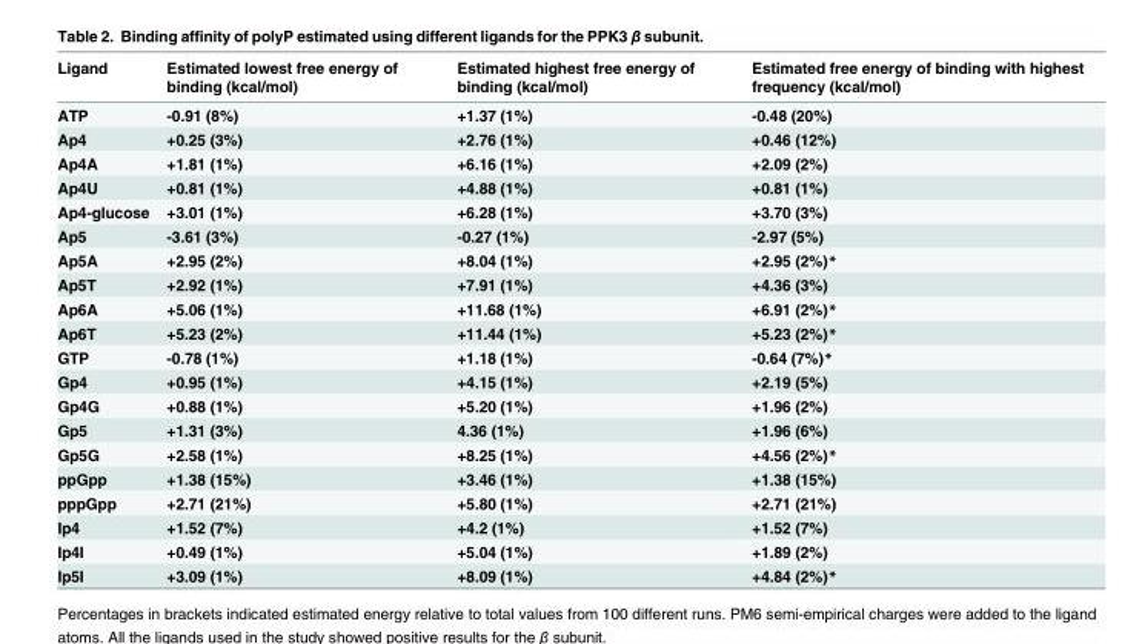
<table><thead><tr><td>Ligand</td><td>Estimated lowest free energy of binding (kcal/mol)</td><td>Estimated highest free energy of binding (kcal/mol)</td><td>Estimated free energy of binding with highest frequency (kcal/mol)</td></tr></thead><tbody><tr><td>ATP</td><td>-0.91 (8%)</td><td>+1.37 (1%)</td><td>-0.48 (20%)</td></tr><tr><td>Ap4</td><td>+0.25 (3%)</td><td>+2.76 (1%)</td><td>+0.46 (12%)</td></tr><tr><td>Ap4A</td><td>+1.81 (1%)</td><td>+6.16 (1%)</td><td>+2.09 (2%)</td></tr><tr><td>Ap4U</td><td>+0.81 (1%)</td><td>+4.88 (1%)</td><td>+0.81 (1%)</td></tr><tr><td>Ap4-glucose</td><td>+3.01 (1%)</td><td>+6.28 (1%)</td><td>+3.70 (3%)</td></tr><tr><td>Ap5</td><td>-3.61 (3%)</td><td>-0.27 (1%)</td><td>-2.97 (5%)</td></tr><tr><td>Ap5A</td><td>+2.95 (2%)</td><td>+8.04 (1%)</td><td>+2.95 (2%)*</td></tr><tr><td>Ap5T</td><td>+2.92 (1%)</td><td>+7.91 (1%)</td><td>+4.36 (3%)</td></tr><tr><td>Ap6A</td><td>+5.06 (1%)</td><td>+11.68 (1%)</td><td>+6.91 (2%)*</td></tr><tr><td>Ap6T</td><td>+5.23 (2%)</td><td>+11.44 (1%)</td><td>+5.23 (2%)*</td></tr><tr><td>GTP</td><td>-0.78 (1%)</td><td>+1.18 (1%)</td><td>-0.64 (7%)*</td></tr><tr><td>Gp4</td><td>+0.95 (1%)</td><td>+4.15 (1%)</td><td>+2.19 (5%)</td></tr><tr><td>Gp4G</td><td>+0.88 (1%)</td><td>+5.20 (1%)</td><td>+1.96 (2%)</td></tr><tr><td>Gp5</td><td>+1.31 (3%)</td><td>4.36 (1%)</td><td>+1.96 (6%)</td></tr><tr><td>Gp5G</td><td>+2.58 (1%)</td><td>+8.25 (1%)</td><td>+4.56 (2%)*</td></tr><tr><td>ppGpp</td><td>+1.38 (15%)</td><td>+3.46 (1%)</td><td>+1.38 (15%)</td></tr><tr><td>pppGpp</td><td>+2.71 (21%)</td><td>+5.80 (1%)</td><td>+2.71 (21%)</td></tr><tr><td>Ip4</td><td>+1.52 (7%)</td><td>+4.2 (1%)</td><td>+1.52 (7%)</td></tr><tr><td>Ip4I</td><td>+0.49 (1%)</td><td>+5.04 (1%)</td><td>+1.89 (2%)</td></tr><tr><td>Ip5I</td><td>+3.09 (1%)</td><td>+8.09 (1%)</td><td>+4.84 (2%)*</td></tr></tbody></table>